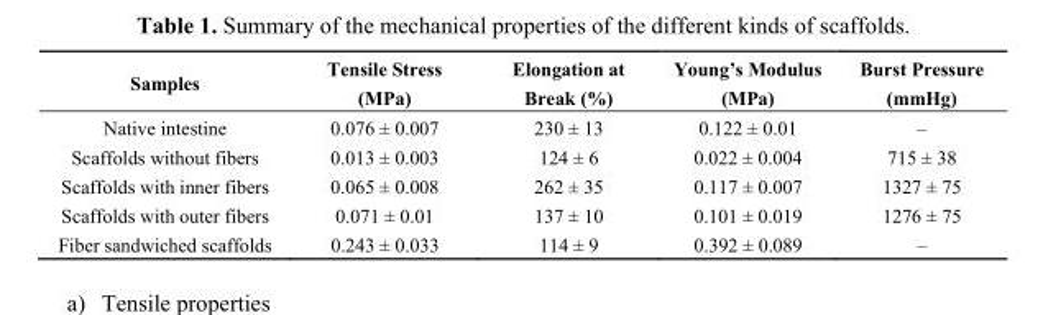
<table><thead><tr><td>Samples</td><td>Tensile Stress (MPa)</td><td>Elongation at Break (%)</td><td>Young’s Modulus (MPa)</td><td>Burst Pressure (mmHg)</td></tr></thead><tbody><tr><td>Native intestine</td><td>0.076 ± 0.007</td><td>230 ± 13</td><td>0.122 ± 0.01</td><td>–</td></tr><tr><td>Scaffolds without fibers</td><td>0.013 ± 0.003</td><td>124 ± 6</td><td>0.022 ± 0.004</td><td>715 ± 38</td></tr><tr><td>Scaffolds with inner fibers</td><td>0.065 ± 0.008</td><td>262 ± 35</td><td>0.117 ± 0.007</td><td>1327 ± 75</td></tr><tr><td>Scaffolds with outer fibers</td><td>0.071 ± 0.01</td><td>137 ± 10</td><td>0.101 ± 0.019</td><td>1276 ± 75</td></tr><tr><td>Fiber sandwiched scaffolds</td><td>0.243 ± 0.033</td><td>114 ± 9</td><td>0.392 ± 0.089</td><td>–</td></tr></tbody></table>